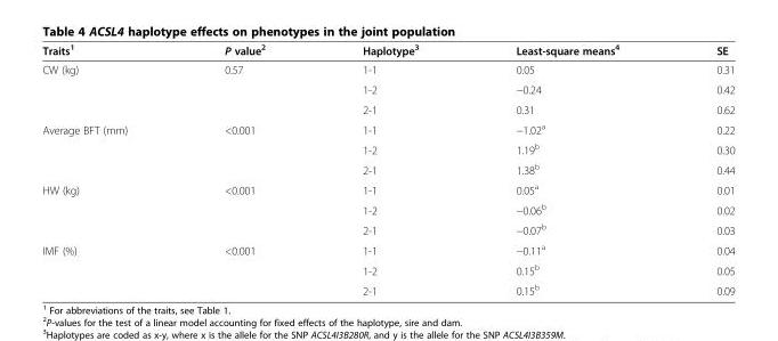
<table><thead><tr><td>Traits<sup>1</sup></td><td>P value<sup>2</sup></td><td>Haplotype<sup>3</sup></td><td>Least-square means<sup>4</sup></td><td>SE</td></tr></thead><tbody><tr><td rowspan="3">CW (kg)</td><td>0.57</td><td>1-1</td><td>0.05</td><td>0.31</td></tr><tr><td></td><td>1-2</td><td>−0.24</td><td>0.42</td></tr><tr><td></td><td>2-1</td><td>0.31</td><td>0.62</td></tr><tr><td rowspan="3">Average BFT (mm)</td><td>&lt;0.001</td><td>1-1</td><td>−1.02<sup>a</sup></td><td>0.22</td></tr><tr><td></td><td>1-2</td><td>1.19<sup>b</sup></td><td>0.30</td></tr><tr><td></td><td>2-1</td><td>1.38<sup>b</sup></td><td>0.44</td></tr><tr><td rowspan="3">HW (kg)</td><td>&lt;0.001</td><td>1-1</td><td>0.05<sup>a</sup></td><td>0.01</td></tr><tr><td></td><td>1-2</td><td>−0.06<sup>b</sup></td><td>0.02</td></tr><tr><td></td><td>2-1</td><td>−0.07<sup>b</sup></td><td>0.03</td></tr><tr><td rowspan="3">IMF (%)</td><td>&lt;0.001</td><td>1-1</td><td>−0.11<sup>a</sup></td><td>0.04</td></tr><tr><td></td><td>1-2</td><td>0.15<sup>b</sup></td><td>0.05</td></tr><tr><td></td><td>2-1</td><td>0.15<sup>b</sup></td><td>0.09</td></tr></tbody></table>